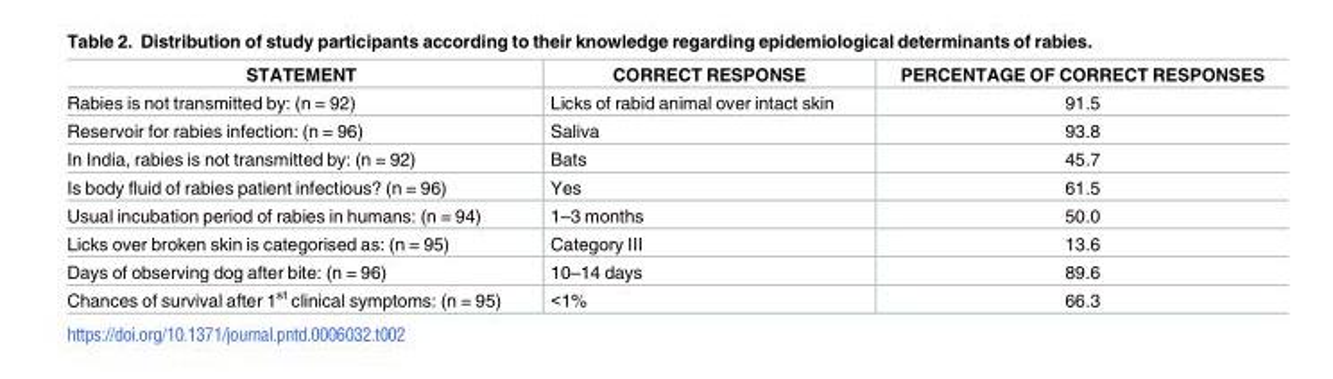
<table><thead><tr><td>STATEMENT</td><td>CORRECT RESPONSE</td><td>PERCENTAGE OF CORRECT RESPONSES</td></tr></thead><tbody><tr><td>Rabies is not transmitted by: (n = 92)</td><td>Licks of rabid animal over intact skin</td><td>91.5</td></tr><tr><td>Reservoir for rabies infection: (n = 96)</td><td>Saliva</td><td>93.8</td></tr><tr><td>In India, rabies is not transmitted by: (n = 92)</td><td>Bats</td><td>45.7</td></tr><tr><td>Is body fluid of rabies patient infectious? (n = 96)</td><td>Yes</td><td>61.5</td></tr><tr><td>Usual incubation period of rabies in humans: (n = 94)</td><td>1–3 months</td><td>50.0</td></tr><tr><td>Licks over broken skin is categorised as: (n = 95)</td><td>Category III</td><td>13.6</td></tr><tr><td>Days of observing dog after bite: (n = 96)</td><td>10–14 days</td><td>89.6</td></tr><tr><td>Chances of survival after 1<sup>st</sup> clinical symptoms: (n = 95)</td><td>&lt;1%</td><td>66.3</td></tr></tbody></table>